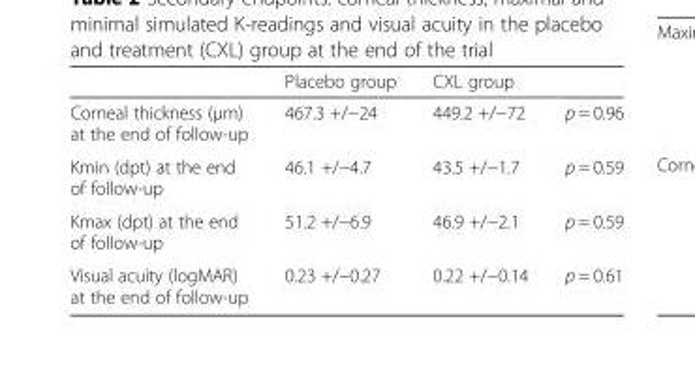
<table><thead><tr><td></td><td>Placebo group</td><td>CXL group</td><td></td></tr></thead><tbody><tr><td>Corneal thickness (μm) at the end of follow-up</td><td>467.3 +/−24</td><td>449.2 +/−72</td><td>p = 0.96</td></tr><tr><td>Kmin (dpt) at the end of follow-up</td><td>46.1 +/−4.7</td><td>43.5 +/−1.7</td><td>p = 0.59</td></tr><tr><td>Kmax (dpt) at the end of follow-up</td><td>51.2 +/−6.9</td><td>46.9 +/−2.1</td><td>p = 0.59</td></tr><tr><td>Visual acuity (logMAR) at the end of follow-up</td><td>0.23 +/−0.27</td><td>0.22 +/−0.14</td><td>p = 0.61</td></tr></tbody></table>